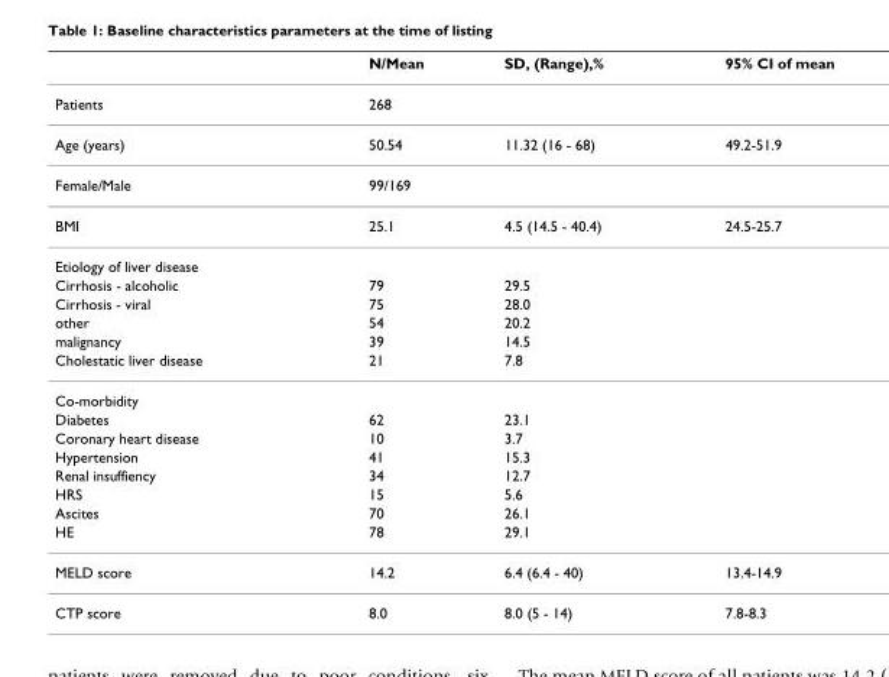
<table><thead><tr><td></td><td>N/Mean</td><td>SD, (Range),%</td><td>95% CI of mean</td></tr></thead><tbody><tr><td>Patients</td><td>268</td><td></td><td></td></tr><tr><td>Age (years)</td><td>50.54</td><td>11.32 (16 - 68)</td><td>49.2-51.9</td></tr><tr><td>Female/Male</td><td>99/169</td><td></td><td></td></tr><tr><td>BMI</td><td>25.1</td><td>4.5 (14.5 - 40.4)</td><td>24.5-25.7</td></tr><tr><td colspan="4">Etiology of liver disease</td></tr><tr><td>Cirrhosis - alcoholic</td><td>79</td><td>29.5</td><td></td></tr><tr><td>Cirrhosis - viral</td><td>75</td><td>28.0</td><td></td></tr><tr><td>other</td><td>54</td><td>20.2</td><td></td></tr><tr><td>malignancy</td><td>39</td><td>14.5</td><td></td></tr><tr><td>Cholestatic liver disease</td><td>21</td><td>7.8</td><td></td></tr><tr><td colspan="4">Co-morbidity</td></tr><tr><td>Diabetes</td><td>62</td><td>23.1</td><td></td></tr><tr><td>Coronary heart disease</td><td>10</td><td>3.7</td><td></td></tr><tr><td>Hypertension</td><td>41</td><td>15.3</td><td></td></tr><tr><td>Renal insuffiency</td><td>34</td><td>12.7</td><td></td></tr><tr><td>HRS</td><td>15</td><td>5.6</td><td></td></tr><tr><td>Ascites</td><td>70</td><td>26.1</td><td></td></tr><tr><td>HE</td><td>78</td><td>29.1</td><td></td></tr><tr><td>MELD score</td><td>14.2</td><td>6.4 (6.4 - 40)</td><td>13.4-14.9</td></tr><tr><td>CTP score</td><td>8.0</td><td>8.0 (5 - 14)</td><td>7.8-8.3</td></tr></tbody></table>